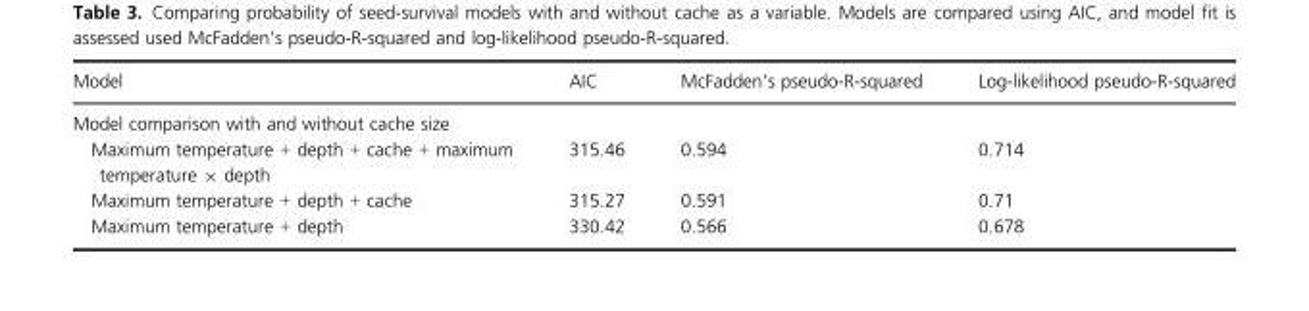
<table><thead><tr><td>Model</td><td>AIC</td><td>McFadden’s pseudo-R-squared</td><td>Log-likelihood pseudo-R-squared</td></tr></thead><tbody><tr><td colspan="4">Model comparison with and without cache size</td></tr><tr><td>Maximum temperature + depth + cache + maximum temperature × depth</td><td>315.46</td><td>0.594</td><td>0.714</td></tr><tr><td>Maximum temperature + depth + cache</td><td>315.27</td><td>0.591</td><td>0.71</td></tr><tr><td>Maximum temperature + depth</td><td>330.42</td><td>0.566</td><td>0.678</td></tr></tbody></table>